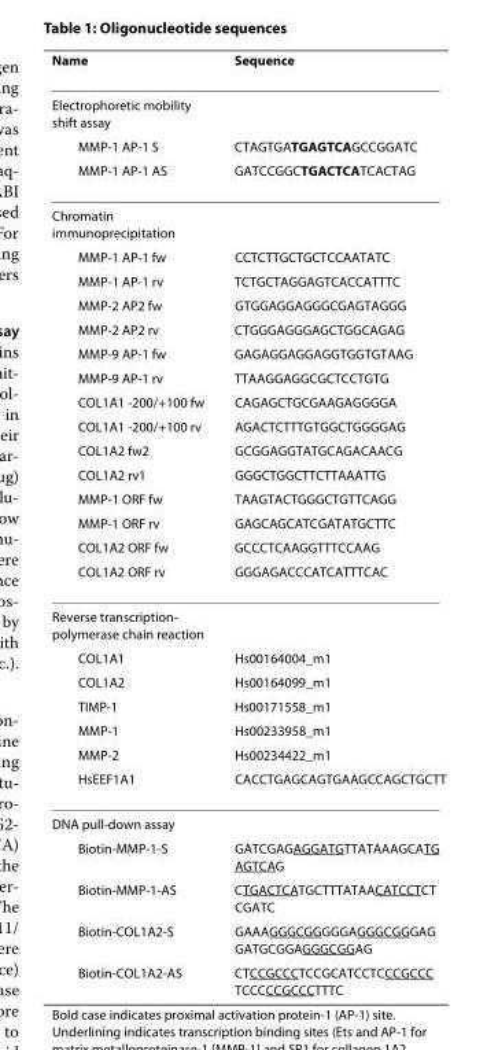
<table><thead><tr><td>Name</td><td>Sequence</td></tr></thead><tbody><tr><td colspan="2">Electrophoretic mobility shift assay</td></tr><tr><td>MMP-1 AP-1 S</td><td>CTAGTGATGAGTCAGCCGGATC</td></tr><tr><td>MMP-1 AP-1 AS</td><td>GATCCGGCTGACTCATCACTAG</td></tr><tr><td colspan="2">Chromatin immunoprecipitation</td></tr><tr><td>MMP-1 AP-1 fw</td><td>CCTCTTGCTGCTCCAATATC</td></tr><tr><td>MMP-1 AP-1 rv</td><td>TCTGCTAGGAGTCACCATTTC</td></tr><tr><td>MMP-2 AP2 fw</td><td>GTGGAGGAGGGCGAGTAGGG</td></tr><tr><td>MMP-2 AP2 rv</td><td>CTGGGAGGGAGCTGGCAGAG</td></tr><tr><td>MMP-9 AP-1 fw</td><td>GAGAGGAGGAGGTGGTGTAAG</td></tr><tr><td>MMP-9 AP-1 rv</td><td>TTAAGGAGGCGCTCCTGTG</td></tr><tr><td>COL1A1 -200/+100 fw</td><td>CAGAGCTGCGAAGAGGGGA</td></tr><tr><td>COL1A1 -200/+100 rv</td><td>AGACTCTTTGTGGCTGGGGAG</td></tr><tr><td>COL1A2 fw2</td><td>GCGGAGGTATGCAGACAACG</td></tr><tr><td>COL1A2 rv1</td><td>GGGCTGGCTTCTTAAATTG</td></tr><tr><td>MMP-1 ORF fw</td><td>TAAGTACTGGGCTGTTCAGG</td></tr><tr><td>MMP-1 ORF rv</td><td>GAGCAGCATCGATATGCTTC</td></tr><tr><td>COL1A2 ORF fw</td><td>GCCCTCAAGGTTTCCAAG</td></tr><tr><td>COL1A2 ORF rv</td><td>GGGAGACCCATCATTTCAC</td></tr><tr><td colspan="2">Reverse transcription- polymerase chain reaction</td></tr><tr><td>COL1A1</td><td>Hs00164004_m1</td></tr><tr><td>COL1A2</td><td>Hs00164099_m1</td></tr><tr><td>TIMP-1</td><td>Hs00171558_m1</td></tr><tr><td>MMP-1</td><td>Hs00233958_m1</td></tr><tr><td>MMP-2</td><td>Hs00234422_m1</td></tr><tr><td>HsEEF1A1</td><td>CACCTGAGCAGTGAAGCCAGCTGCTT</td></tr><tr><td colspan="2">DNA pull-down assay</td></tr><tr><td>Biotin-MMP-1-S</td><td>GATCGAGAGGATGTTATAAAGCATG AGTCAG</td></tr><tr><td>Biotin-MMP-1-AS</td><td>CTGACTCATGCTTTATAACATCCTCT CGATC</td></tr><tr><td>Biotin-COL1A2-S</td><td>GAAAGGGCGGGGGAGGGCGGGAG GATGCGGAGGGCGGAG</td></tr><tr><td>Biotin-COL1A2-AS</td><td>CTCCGCCCTCCGCATCCTCCCGCCC TCCCCCGCCCTTTC</td></tr></tbody></table>